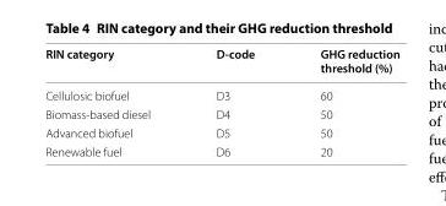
<table><thead><tr><td>RIN category</td><td>D‑code</td><td>GHG reduction threshold (%)</td></tr></thead><tbody><tr><td>Cellulosic biofuel</td><td>D3</td><td>60</td></tr><tr><td>Biomass-based diesel</td><td>D4</td><td>50</td></tr><tr><td>Advanced biofuel</td><td>D5</td><td>50</td></tr><tr><td>Renewable fuel</td><td>D6</td><td>20</td></tr></tbody></table>